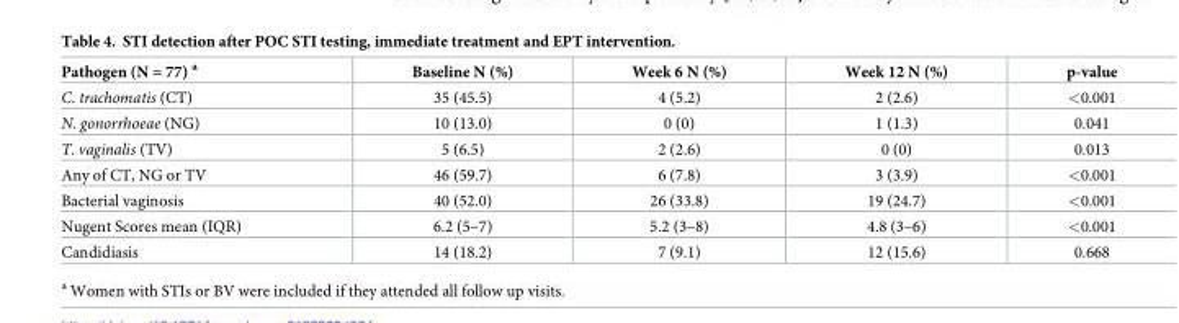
<table><thead><tr><td>Pathogen (N = 77) <sup>a</sup></td><td>Baseline N (%)</td><td>Week 6 N (%)</td><td>Week 12 N (%)</td><td>p-value</td></tr></thead><tbody><tr><td>C. trachomatis (CT)</td><td>35 (45.5)</td><td>4 (5.2)</td><td>2 (2.6)</td><td>&lt;0.001</td></tr><tr><td>N. gonorrhoeae (NG)</td><td>10 (13.0)</td><td>0 (0)</td><td>1 (1.3)</td><td>0.041</td></tr><tr><td>T. vaginalis (TV)</td><td>5 (6.5)</td><td>2 (2.6)</td><td>0 (0)</td><td>0.013</td></tr><tr><td>Any of CT, NG or TV</td><td>46 (59.7)</td><td>6 (7.8)</td><td>3 (3.9)</td><td>&lt;0.001</td></tr><tr><td>Bacterial vaginosis</td><td>40 (52.0)</td><td>26 (33.8)</td><td>19 (24.7)</td><td>&lt;0.001</td></tr><tr><td>Nugent Scores mean (IQR)</td><td>6.2 (5–7)</td><td>5.2 (3–8)</td><td>4.8 (3–6)</td><td>&lt;0.001</td></tr><tr><td>Candidiasis</td><td>14 (18.2)</td><td>7 (9.1)</td><td>12 (15.6)</td><td>0.668</td></tr></tbody></table>